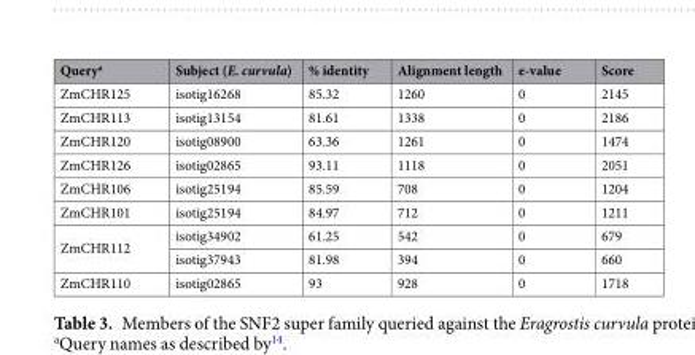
<table><thead><tr><td>Query<sup>a</sup></td><td>Subject (E. curvula)</td><td>% identity</td><td>Alignment length</td><td>e-value</td><td>Score</td></tr></thead><tbody><tr><td>ZmCHR125</td><td>isotig16268</td><td>85.32</td><td>1260</td><td>0</td><td>2145</td></tr><tr><td>ZmCHR113</td><td>isotig13154</td><td>81.61</td><td>1338</td><td>0</td><td>2186</td></tr><tr><td>ZmCHR120</td><td>isotig08900</td><td>63.36</td><td>1261</td><td>0</td><td>1474</td></tr><tr><td>ZmCHR126</td><td>isotig02865</td><td>93.11</td><td>1118</td><td>0</td><td>2051</td></tr><tr><td>ZmCHR106</td><td>isotig25194</td><td>85.59</td><td>708</td><td>0</td><td>1204</td></tr><tr><td>ZmCHR101</td><td>isotig25194</td><td>84.97</td><td>712</td><td>0</td><td>1211</td></tr><tr><td rowspan="2">ZmCHR112</td><td>isotig34902</td><td>61.25</td><td>542</td><td>0</td><td>679</td></tr><tr><td>isotig37943</td><td>81.98</td><td>394</td><td>0</td><td>660</td></tr><tr><td>ZmCHR110</td><td>isotig02865</td><td>93</td><td>928</td><td>0</td><td>1718</td></tr></tbody></table>